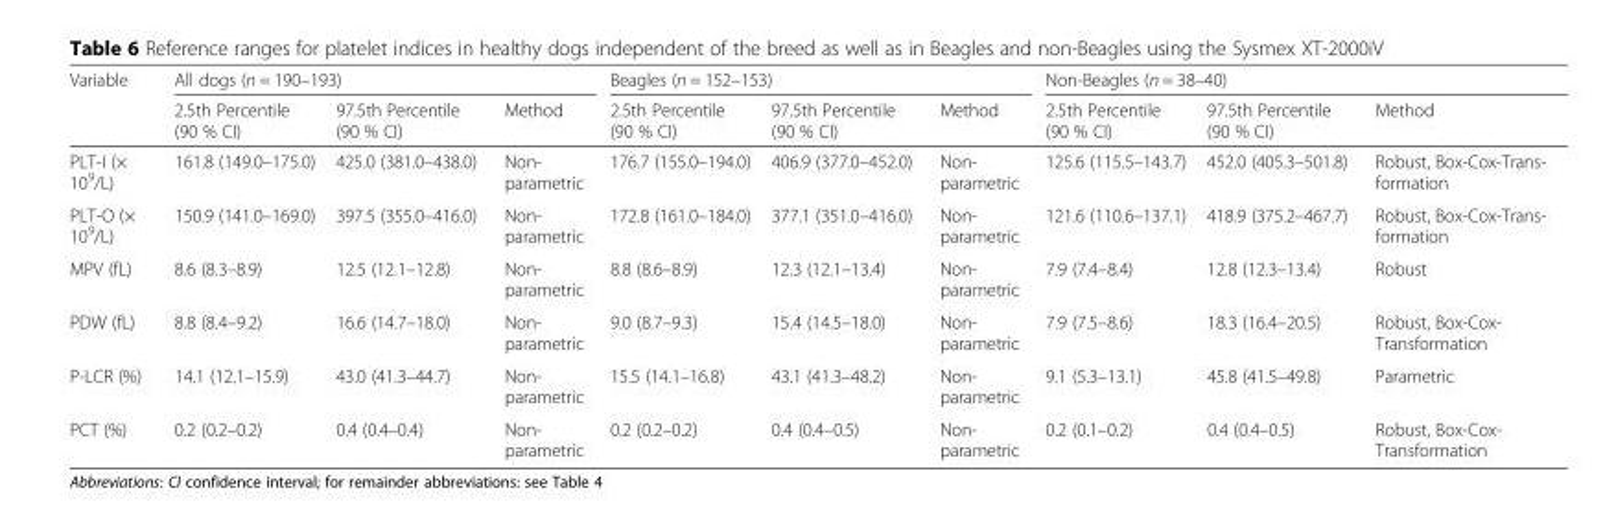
<table><thead><tr><td rowspan="2">Variable</td><td colspan="3">All dogs (n = 190–193)</td><td colspan="3">Beagles (n = 152–153)</td><td colspan="3">Non-Beagles (n = 38–40)</td></tr><tr><td>2.5th Percentile (90 % CI)</td><td>97.5th Percentile (90 % CI)</td><td>Method</td><td>2.5th Percentile (90 % CI)</td><td>97.5th Percentile (90 % CI)</td><td>Method</td><td>2.5th Percentile (90 % CI)</td><td>97.5th Percentile (90 % CI)</td><td>Method</td></tr></thead><tbody><tr><td>PLT-I (× 10<sup>9</sup>/L)</td><td>161.8 (149.0–175.0)</td><td>425.0 (381.0–438.0)</td><td>Non- parametric</td><td>176.7 (155.0–194.0)</td><td>406.9 (377.0–452.0)</td><td>Non- parametric</td><td>125.6 (115.5–143.7)</td><td>452.0 (405.3–501.8)</td><td>Robust, Box-Cox-Trans- formation</td></tr><tr><td>PLT-O (× 10<sup>9</sup>/L)</td><td>150.9 (141.0–169.0)</td><td>397.5 (355.0–416.0)</td><td>Non- parametric</td><td>172.8 (161.0–184.0)</td><td>377.1 (351.0–416.0)</td><td>Non- parametric</td><td>121.6 (110.6–137.1)</td><td>418.9 (375.2–467.7)</td><td>Robust, Box-Cox-Trans- formation</td></tr><tr><td>MPV (fL)</td><td>8.6 (8.3–8.9)</td><td>12.5 (12.1–12.8)</td><td>Non- parametric</td><td>8.8 (8.6–8.9)</td><td>12.3 (12.1–13.4)</td><td>Non- parametric</td><td>7.9 (7.4–8.4)</td><td>12.8 (12.3–13.4)</td><td>Robust</td></tr><tr><td>PDW (fL)</td><td>8.8 (8.4–9.2)</td><td>16.6 (14.7–18.0)</td><td>Non- parametric</td><td>9.0 (8.7–9.3)</td><td>15.4 (14.5–18.0)</td><td>Non- parametric</td><td>7.9 (7.5–8.6)</td><td>18.3 (16.4–20.5)</td><td>Robust, Box-Cox- Transformation</td></tr><tr><td>P-LCR (%)</td><td>14.1 (12.1–15.9)</td><td>43.0 (41.3–44.7)</td><td>Non- parametric</td><td>15.5 (14.1–16.8)</td><td>43.1 (41.3–48.2)</td><td>Non- parametric</td><td>9.1 (5.3–13.1)</td><td>45.8 (41.5–49.8)</td><td>Parametric</td></tr><tr><td>PCT (%)</td><td>0.2 (0.2–0.2)</td><td>0.4 (0.4–0.4)</td><td>Non- parametric</td><td>0.2 (0.2–0.2)</td><td>0.4 (0.4–0.5)</td><td>Non- parametric</td><td>0.2 (0.1–0.2)</td><td>0.4 (0.4–0.5)</td><td>Robust, Box-Cox- Transformation</td></tr></tbody></table>